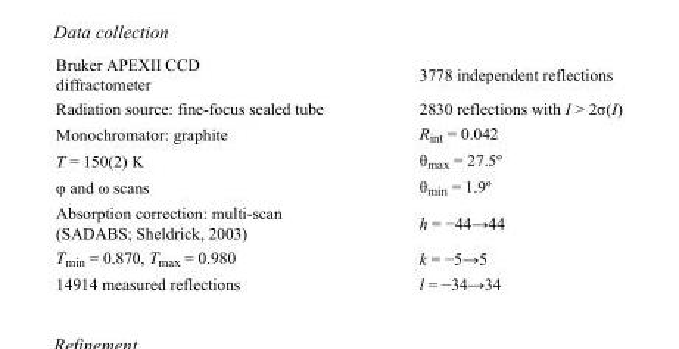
<table><tbody><tr><td>Bruker APEXII CCD diffractometer</td><td>3778 independent reflections</td></tr><tr><td>Radiation source: fine-focus sealed tube</td><td>2830 reflections with I &gt; 2σ(I)</td></tr><tr><td>Monochromator: graphite</td><td>R<sub>int</sub> = 0.042</td></tr><tr><td>T = 150(2) K</td><td>θ<sub>max</sub> = 27.5º</td></tr><tr><td>φ and ω scans</td><td>θ<sub>min</sub> = 1.9º</td></tr><tr><td>Absorption correction: multi-scan (SADABS; Sheldrick, 2003)</td><td>h = −44→44</td></tr><tr><td>T<sub>min</sub> = 0.870, T<sub>max</sub> = 0.980</td><td>k = −5→5</td></tr><tr><td>14914 measured reflections</td><td>l = −34→34</td></tr></tbody></table>